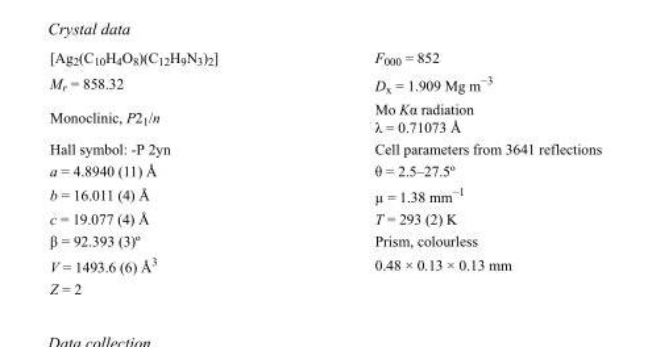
<table><tbody><tr><td>[Ag<sub>2</sub>(C<sub>10</sub>H<sub>4</sub>O<sub>8</sub>)(C<sub>12</sub>H<sub>9</sub>N<sub>3</sub>)<sub>2</sub>]</td><td>F<sub>000</sub> = 852</td></tr><tr><td>M<sub>r</sub> = 858.32</td><td>D<sub>x</sub> = 1.909 Mg m<sup>−3</sup></td></tr><tr><td>Monoclinic, P2<sub>1</sub>/n</td><td>Mo Kα radiation λ = 0.71073 Å</td></tr><tr><td>Hall symbol: -P 2yn</td><td>Cell parameters from 3641 reflections</td></tr><tr><td>a = 4.8940 (11) Å</td><td>θ = 2.5–27.5º</td></tr><tr><td>b = 16.011 (4) Å</td><td>µ = 1.38 mm<sup>−1</sup></td></tr><tr><td>c = 19.077 (4) Å</td><td>T = 293 (2) K</td></tr><tr><td>β = 92.393 (3)º</td><td>Prism, colourless</td></tr><tr><td>V = 1493.6 (6) Å<sup>3</sup></td><td>0.48 × 0.13 × 0.13 mm</td></tr><tr><td>Z = 2</td><td></td></tr></tbody></table>